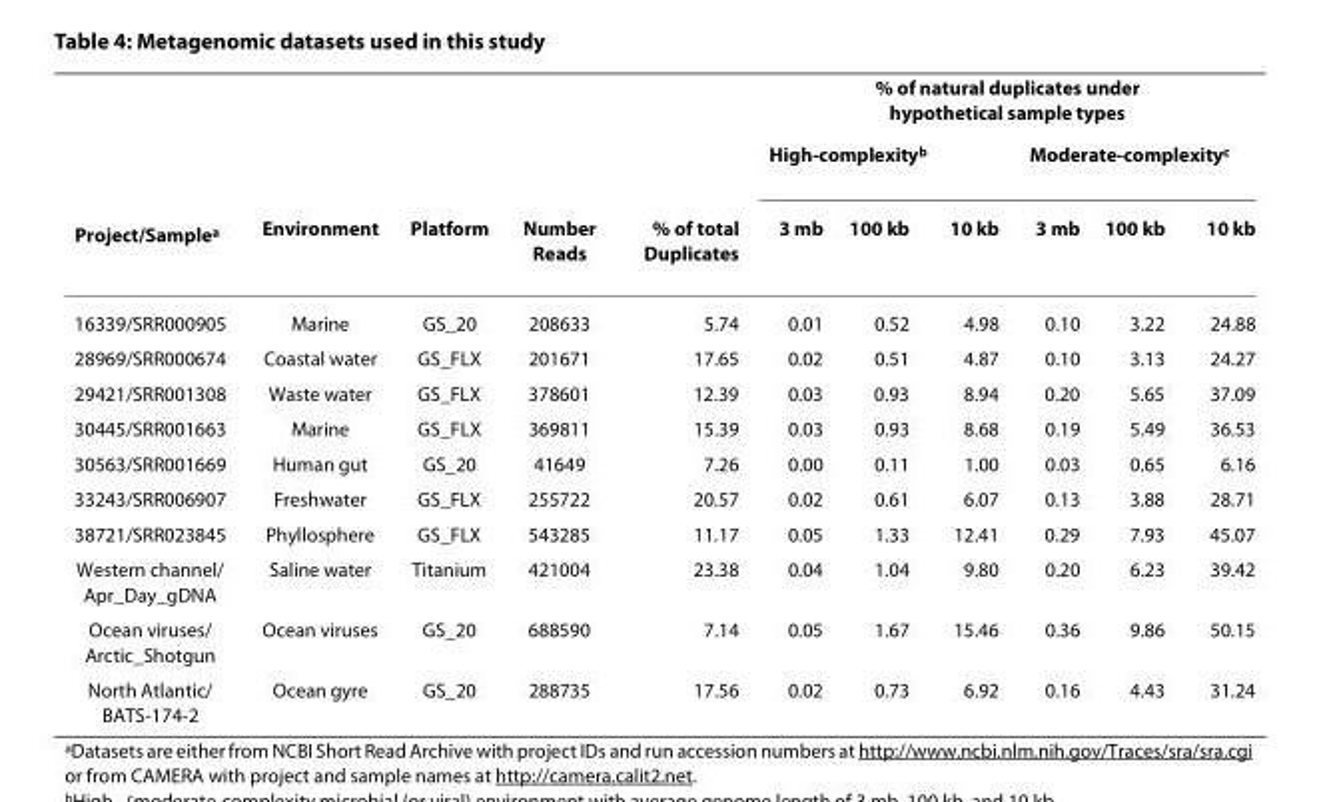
<table><thead><tr><td rowspan="3">Project/Sample<sup>a</sup></td><td rowspan="3">Environment</td><td rowspan="3">Platform</td><td rowspan="3">Number Reads</td><td rowspan="3">% of total Duplicates</td><td colspan="6">% of natural duplicates under hypothetical sample types</td></tr><tr><td colspan="3">High-complexity<sup>b</sup></td><td colspan="3">Moderate-complexity<sup>c</sup></td></tr><tr><td>3 mb</td><td>100 kb</td><td>10 kb</td><td>3 mb</td><td>100 kb</td><td>10 kb</td></tr></thead><tbody><tr><td>16339/SRR000905</td><td>Marine</td><td>GS_20</td><td>208633</td><td>5.74</td><td>0.01</td><td>0.52</td><td>4.98</td><td>0.10</td><td>3.22</td><td>24.88</td></tr><tr><td>28969/SRR000674</td><td>Coastal water</td><td>GS_FLX</td><td>201671</td><td>17.65</td><td>0.02</td><td>0.51</td><td>4.87</td><td>0.10</td><td>3.13</td><td>24.27</td></tr><tr><td>29421/SRR001308</td><td>Waste water</td><td>GS_FLX</td><td>378601</td><td>12.39</td><td>0.03</td><td>0.93</td><td>8.94</td><td>0.20</td><td>5.65</td><td>37.09</td></tr><tr><td>30445/SRR001663</td><td>Marine</td><td>GS_FLX</td><td>369811</td><td>15.39</td><td>0.03</td><td>0.93</td><td>8.68</td><td>0.19</td><td>5.49</td><td>36.53</td></tr><tr><td>30563/SRR001669</td><td>Human gut</td><td>GS_20</td><td>41649</td><td>7.26</td><td>0.00</td><td>0.11</td><td>1.00</td><td>0.03</td><td>0.65</td><td>6.16</td></tr><tr><td>33243/SRR006907</td><td>Freshwater</td><td>GS_FLX</td><td>255722</td><td>20.57</td><td>0.02</td><td>0.61</td><td>6.07</td><td>0.13</td><td>3.88</td><td>28.71</td></tr><tr><td>38721/SRR023845</td><td>Phyllosphere</td><td>GS_FLX</td><td>543285</td><td>11.17</td><td>0.05</td><td>1.33</td><td>12.41</td><td>0.29</td><td>7.93</td><td>45.07</td></tr><tr><td>Western channel/ Apr_Day_gDNA</td><td>Saline water</td><td>Titanium</td><td>421004</td><td>23.38</td><td>0.04</td><td>1.04</td><td>9.80</td><td>0.20</td><td>6.23</td><td>39.42</td></tr><tr><td>Ocean viruses/ Arctic_Shotgun</td><td>Ocean viruses</td><td>GS_20</td><td>688590</td><td>7.14</td><td>0.05</td><td>1.67</td><td>15.46</td><td>0.36</td><td>9.86</td><td>50.15</td></tr><tr><td>North Atlantic/ BATS-174-2</td><td>Ocean gyre</td><td>GS_20</td><td>288735</td><td>17.56</td><td>0.02</td><td>0.73</td><td>6.92</td><td>0.16</td><td>4.43</td><td>31.24</td></tr></tbody></table>